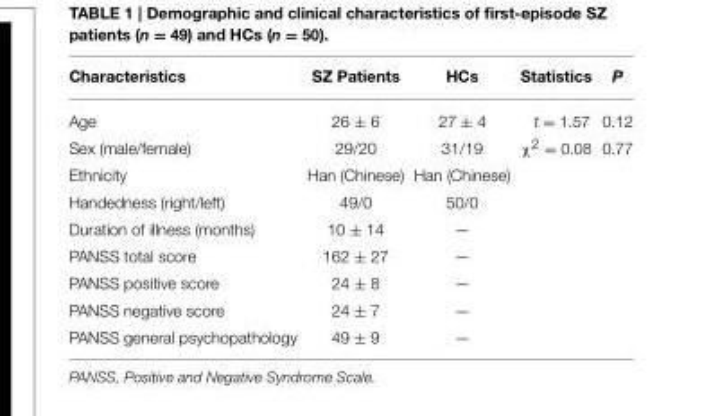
<table><thead><tr><td>Characteristics</td><td>SZ Patients</td><td>HCs</td><td>Statistics</td><td>P</td></tr></thead><tbody><tr><td>Age</td><td>26 ± 6</td><td>27 ± 4</td><td>t = 1.57</td><td>0.12</td></tr><tr><td>Sex (male/female)</td><td>29/20</td><td>31/19</td><td>χ<sup>2</sup> = 0.08</td><td>0.77</td></tr><tr><td>Ethnicity</td><td>Han (Chinese)</td><td>Han (Chinese)</td><td></td><td></td></tr><tr><td>Handedness (right/left)</td><td>49/0</td><td>50/0</td><td></td><td></td></tr><tr><td>Duration of illness (months)</td><td>10 ± 14</td><td>—</td><td></td><td></td></tr><tr><td>PANSS total score</td><td>162 ± 27</td><td>—</td><td></td><td></td></tr><tr><td>PANSS positive score</td><td>24 ± 8</td><td>—</td><td></td><td></td></tr><tr><td>PANSS negative score</td><td>24 ± 7</td><td>—</td><td></td><td></td></tr><tr><td>PANSS general psychopathology</td><td>49 ± 9</td><td>—</td><td></td><td></td></tr></tbody></table>